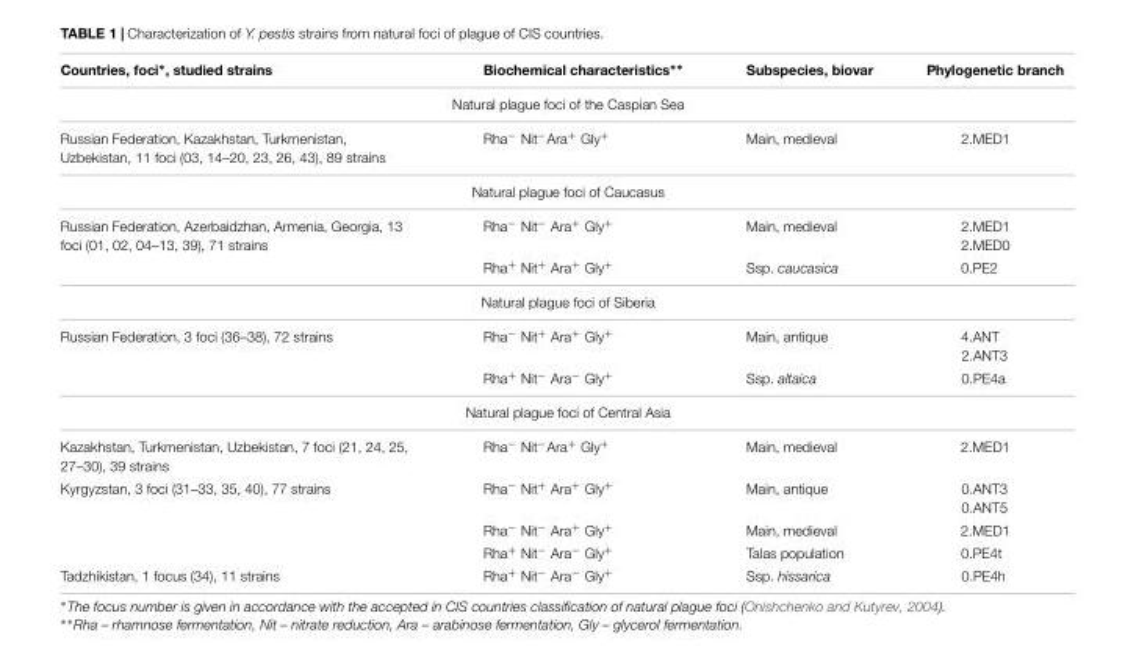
<table><thead><tr><td>Countries, foci∗, studied strains</td><td>Biochemical characteristics∗∗</td><td>Subspecies, biovar</td><td>Phylogenetic branch</td></tr></thead><tbody><tr><td colspan="4">Natural plague foci of the Caspian Sea</td></tr><tr><td>Russian Federation, Kazakhstan, Turkmenistan, Uzbekistan, 11 foci (03, 14–20, 23, 26, 43), 89 strains</td><td>Rha<sup>−</sup> Nit<sup>−</sup>Ara<sup>+</sup> Gly<sup>+</sup></td><td>Main, medieval</td><td>2.MED1</td></tr><tr><td colspan="4">Natural plague foci of Caucasus</td></tr><tr><td rowspan="2">Russian Federation, Azerbaidzhan, Armenia, Georgia, 13 foci (01, 02, 04–13, 39), 71 strains</td><td>Rha<sup>−</sup> Nit<sup>−</sup> Ara<sup>+</sup> Gly<sup>+</sup></td><td>Main, medieval</td><td>2.MED1 2.MED0</td></tr><tr><td>Rha<sup>+</sup> Nit<sup>+</sup> Ara<sup>+</sup> Gly<sup>+</sup></td><td>Ssp. caucasica</td><td>0.PE2</td></tr><tr><td colspan="4">Natural plague foci of Siberia</td></tr><tr><td rowspan="2">Russian Federation, 3 foci (36–38), 72 strains</td><td>Rha<sup>−</sup> Nit<sup>+</sup> Ara<sup>+</sup> Gly<sup>+</sup></td><td>Main, antique</td><td>4.ANT 2.ANT3</td></tr><tr><td>Rha<sup>+</sup> Nit<sup>−</sup> Ara<sup>−</sup> Gly<sup>+</sup></td><td>Ssp. altaica</td><td>0.PE4a</td></tr><tr><td colspan="4">Natural plague foci of Central Asia</td></tr><tr><td>Kazakhstan, Turkmenistan, Uzbekistan, 7 foci (21, 24, 25, 27–30), 39 strains</td><td>Rha<sup>−</sup> Nit<sup>−</sup>Ara<sup>+</sup> Gly<sup>+</sup></td><td>Main, medieval</td><td>2.MED1</td></tr><tr><td rowspan="3">Kyrgyzstan, 3 foci (31–33, 35, 40), 77 strains</td><td>Rha<sup>−</sup> Nit<sup>+</sup> Ara<sup>+</sup> Gly<sup>+</sup></td><td>Main, antique</td><td>0.ANT3 0.ANT5</td></tr><tr><td>Rha<sup>−</sup> Nit<sup>−</sup> Ara<sup>+</sup> Gly<sup>+</sup></td><td>Main, medieval</td><td>2.MED1</td></tr><tr><td>Rha<sup>+</sup> Nit<sup>−</sup> Ara<sup>−</sup> Gly<sup>+</sup></td><td>Talas population</td><td>0.PE4t</td></tr><tr><td>Tadzhikistan, 1 focus (34), 11 strains</td><td>Rha<sup>+</sup> Nit<sup>−</sup> Ara<sup>−</sup> Gly<sup>+</sup></td><td>Ssp. hissarica</td><td>0.PE4h</td></tr></tbody></table>